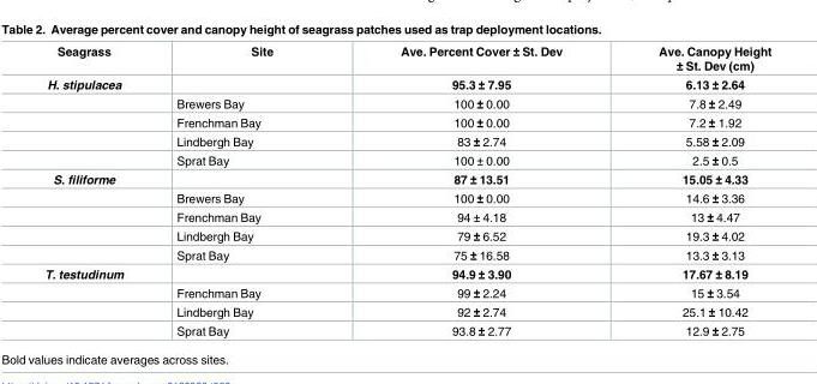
<table><thead><tr><td>Seagrass</td><td>Site</td><td>Ave. Percent Cover ± St. Dev</td><td>Ave. Canopy Height ± St. Dev (cm)</td></tr></thead><tbody><tr><td rowspan="5">H. stipulacea</td><td></td><td>95.3 ± 7.95</td><td>6.13 ± 2.64</td></tr><tr><td>Brewers Bay</td><td>100 ± 0.00</td><td>7.8 ± 2.49</td></tr><tr><td>Frenchman Bay</td><td>100 ± 0.00</td><td>7.2 ± 1.92</td></tr><tr><td>Lindbergh Bay</td><td>83 ± 2.74</td><td>5.58 ± 2.09</td></tr><tr><td>Sprat Bay</td><td>100 ± 0.00</td><td>2.5 ± 0.5</td></tr><tr><td rowspan="5">S. filiforme</td><td></td><td>87 ± 13.51</td><td>15.05 ± 4.33</td></tr><tr><td>Brewers Bay</td><td>100 ± 0.00</td><td>14.6 ± 3.36</td></tr><tr><td>Frenchman Bay</td><td>94 ± 4.18</td><td>13 ± 4.47</td></tr><tr><td>Lindbergh Bay</td><td>79 ± 6.52</td><td>19.3 ± 4.02</td></tr><tr><td>Sprat Bay</td><td>75 ± 16.58</td><td>13.3 ± 3.13</td></tr><tr><td rowspan="4">T. testudinum</td><td></td><td>94.9 ± 3.90</td><td>17.67 ± 8.19</td></tr><tr><td>Frenchman Bay</td><td>99 ± 2.24</td><td>15 ± 3.54</td></tr><tr><td>Lindbergh Bay</td><td>92 ± 2.74</td><td>25.1 ± 10.42</td></tr><tr><td>Sprat Bay</td><td>93.8 ± 2.77</td><td>12.9 ± 2.75</td></tr></tbody></table>